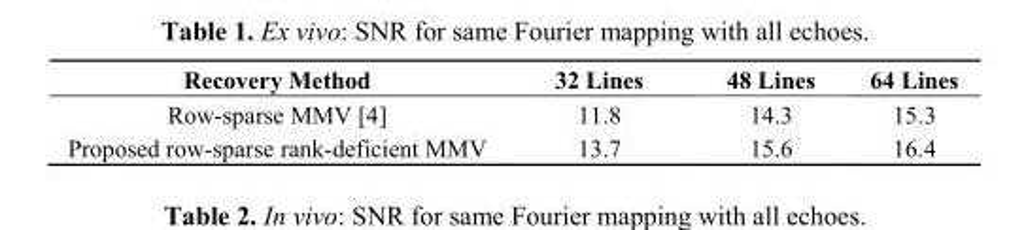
<table><thead><tr><td>Recovery Method</td><td>32 Lines</td><td>48 Lines</td><td>64 Lines</td></tr></thead><tbody><tr><td>Row-sparse MMV [4]</td><td>11.8</td><td>14.3</td><td>15.3</td></tr><tr><td>Proposed row-sparse rank-deficient MMV</td><td>13.7</td><td>15.6</td><td>16.4</td></tr></tbody></table>